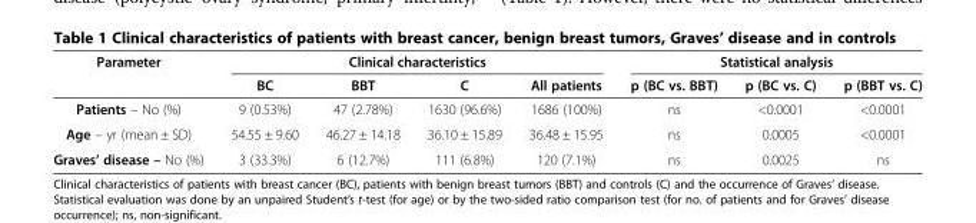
<table><thead><tr><td rowspan="2">Parameter</td><td colspan="4">Clinical characteristics</td><td colspan="3">Statistical analysis</td></tr><tr><td>BC</td><td>BBT</td><td>C</td><td>All patients</td><td>p (BC vs. BBT)</td><td>p (BC vs. C)</td><td>p (BBT vs. C)</td></tr></thead><tbody><tr><td>Patients – No (%)</td><td>9 (0.53%)</td><td>47 (2.78%)</td><td>1630 (96.6%)</td><td>1686 (100%)</td><td>ns</td><td>&lt;0.0001</td><td>&lt;0.0001</td></tr><tr><td>Age – yr (mean ± SD)</td><td>54.55 ± 9.60</td><td>46.27 ± 14.18</td><td>36.10 ± 15.89</td><td>36.48 ± 15.95</td><td>ns</td><td>0.0005</td><td>&lt;0.0001</td></tr><tr><td>Graves’ disease – No (%)</td><td>3 (33.3%)</td><td>6 (12.7%)</td><td>111 (6.8%)</td><td>120 (7.1%)</td><td>ns</td><td>0.0025</td><td>ns</td></tr></tbody></table>